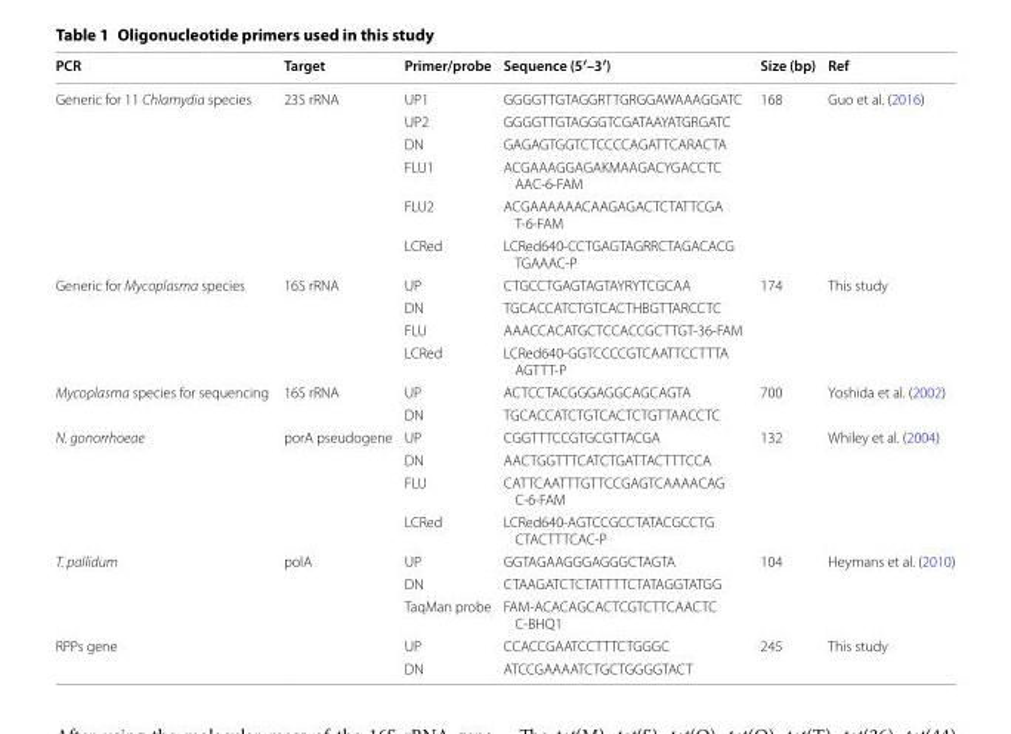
<table><thead><tr><td>PCR</td><td>Target</td><td>Primer/probe</td><td>Sequence (5′–3′)</td><td>Size (bp)</td><td>Ref</td></tr></thead><tbody><tr><td rowspan="6">Generic for 11 Chlamydia species</td><td rowspan="6">23S rRNA</td><td>UP1</td><td>GGGGTTGTAGGRTTGRGGAWAAAGGATC</td><td rowspan="6">168</td><td rowspan="6">Guo et al. (2016)</td></tr><tr><td>UP2</td><td>GGGGTTGTAGGGTCGATAAYATGRGATC</td></tr><tr><td>DN</td><td>GAGAGTGGTCTCCCCAGATTCARACTA</td></tr><tr><td>FLU1</td><td>ACGAAAGGAGAKMAAGACYGACCTC AAC-6-FAM</td></tr><tr><td>FLU2</td><td>ACGAAAAAACAAGAGACTCTATTCGA T-6-FAM</td></tr><tr><td>LCRed</td><td>LCRed640-CCTGAGTAGRRCTAGACACG TGAAAC-P</td></tr><tr><td rowspan="4">Generic for Mycoplasma species</td><td rowspan="4">16S rRNA</td><td>UP</td><td>CTGCCTGAGTAGTAYRYTCGCAA</td><td rowspan="4">174</td><td rowspan="4">This study</td></tr><tr><td>DN</td><td>TGCACCATCTGTCACTHBGTTARCCTC</td></tr><tr><td>FLU</td><td>AAACCACATGCTCCACCGCTTGT-36-FAM</td></tr><tr><td>LCRed</td><td>LCRed640-GGTCCCCGTCAATTCCTTTA AGTTT-P</td></tr><tr><td rowspan="2">Mycoplasma species for sequencing</td><td rowspan="2">16S rRNA</td><td>UP</td><td>ACTCCTACGGGAGGCAGCAGTA</td><td rowspan="2">700</td><td rowspan="2">Yoshida et al. (2002)</td></tr><tr><td>DN</td><td>TGCACCATCTGTCACTCTGTTAACCTC</td></tr><tr><td rowspan="4">N. gonorrhoeae</td><td rowspan="4">porA pseudogene</td><td>UP</td><td>CGGTTTCCGTGCGTTACGA</td><td rowspan="4">132</td><td rowspan="4">Whiley et al. (2004)</td></tr><tr><td>DN</td><td>AACTGGTTTCATCTGATTACTTTCCA</td></tr><tr><td>FLU</td><td>CATTCAATTTGTTCCGAGTCAAAACAG C-6-FAM</td></tr><tr><td>LCRed</td><td>LCRed640-AGTCCGCCTATACGCCTG CTACTTTCAC-P</td></tr><tr><td rowspan="3">T. pallidum</td><td rowspan="3">polA</td><td>UP</td><td>GGTAGAAGGGAGGGCTAGTA</td><td rowspan="3">104</td><td rowspan="3">Heymans et al. (2010)</td></tr><tr><td>DN</td><td>CTAAGATCTCTATTTTCTATAGGTATGG</td></tr><tr><td>TaqMan probe</td><td>FAM-ACACAGCACTCGTCTTCAACTC C-BHQ1</td></tr><tr><td rowspan="2">RPPs gene</td><td rowspan="2"></td><td>UP</td><td>CCACCGAATCCTTTCTGGGC</td><td rowspan="2">245</td><td rowspan="2">This study</td></tr><tr><td>DN</td><td>ATCCGAAAATCTGCTGGGGTACT</td></tr></tbody></table>